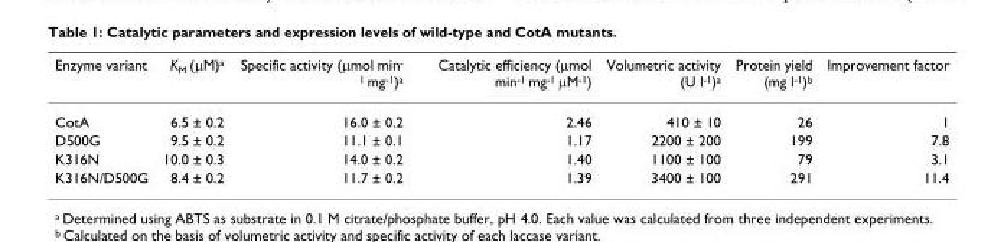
<table><thead><tr><td>Enzyme variant</td><td>K<sub>M</sub> (μM)<sup>a</sup></td><td>Specific activity (μmol min<sup>- 1</sup> mg<sup>-1</sup>)<sup>a</sup></td><td>Catalytic efficiency (μmol min<sup>-1</sup> mg<sup>-1</sup> μM<sup>-1</sup>)</td><td>Volumetric activity (U l<sup>-1</sup>)<sup>a</sup></td><td>Protein yield (mg l<sup>-1</sup>)<sup>b</sup></td><td>Improvement factor</td></tr></thead><tbody><tr><td>CotA</td><td>6.5 ± 0.2</td><td>16.0 ± 0.2</td><td>2.46</td><td>410 ± 10</td><td>26</td><td>1</td></tr><tr><td>D500G</td><td>9.5 ± 0.2</td><td>11.1 ± 0.1</td><td>1.17</td><td>2200 ± 200</td><td>199</td><td>7.8</td></tr><tr><td>K316N</td><td>10.0 ± 0.3</td><td>14.0 ± 0.2</td><td>1.40</td><td>1100 ± 100</td><td>79</td><td>3.1</td></tr><tr><td>K316N/D500G</td><td>8.4 ± 0.2</td><td>11.7 ± 0.2</td><td>1.39</td><td>3400 ± 100</td><td>291</td><td>11.4</td></tr></tbody></table>